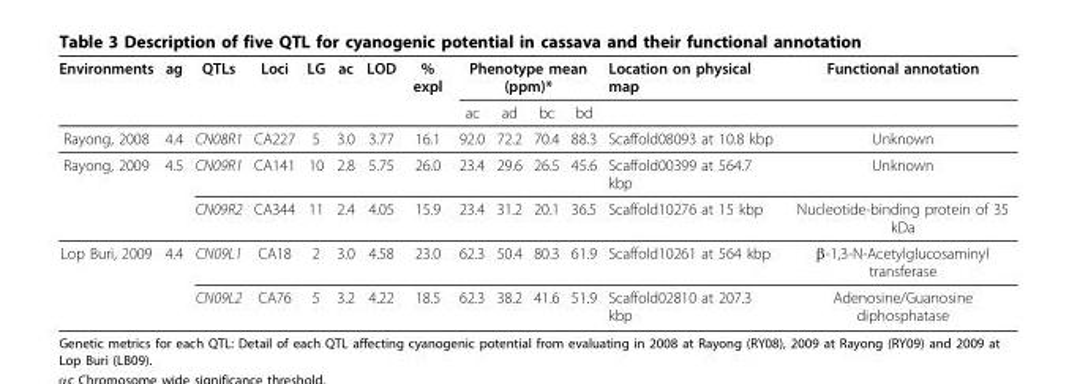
<table><thead><tr><td rowspan="2">Environments</td><td rowspan="2">ag</td><td rowspan="2">QTLs</td><td rowspan="2">Loci</td><td rowspan="2">LG</td><td rowspan="2">ac</td><td rowspan="2">LOD</td><td rowspan="2">% expl</td><td colspan="4">Phenotype mean (ppm)*</td><td rowspan="2">Location on physical map</td><td rowspan="2">Functional annotation</td></tr><tr><td>ac</td><td>ad</td><td>bc</td><td>bd</td></tr></thead><tbody><tr><td>Rayong, 2008</td><td>4.4</td><td>CN08R1</td><td>CA227</td><td>5</td><td>3.0</td><td>3.77</td><td>16.1</td><td>92.0</td><td>72.2</td><td>70.4</td><td>88.3</td><td>Scaffold08093 at 10.8 kbp</td><td>Unknown</td></tr><tr><td rowspan="2">Rayong, 2009</td><td>4.5</td><td>CN09R1</td><td>CA141</td><td>10</td><td>2.8</td><td>5.75</td><td>26.0</td><td>23.4</td><td>29.6</td><td>26.5</td><td>45.6</td><td>Scaffold00399 at 564.7 kbp</td><td>Unknown</td></tr><tr><td></td><td>CN09R2</td><td>CA344</td><td>11</td><td>2.4</td><td>4.05</td><td>15.9</td><td>23.4</td><td>31.2</td><td>20.1</td><td>36.5</td><td>Scaffold10276 at 15 kbp</td><td>Nucleotide-binding protein of 35 kDa</td></tr><tr><td rowspan="2">Lop Buri, 2009</td><td>4.4</td><td>CN09L1</td><td>CA18</td><td>2</td><td>3.0</td><td>4.58</td><td>23.0</td><td>62.3</td><td>50.4</td><td>80.3</td><td>61.9</td><td>Scaffold10261 at 564 kbp</td><td>β-1,3-N-Acetylglucosaminyl transferase</td></tr><tr><td></td><td>CN09L2</td><td>CA76</td><td>5</td><td>3.2</td><td>4.22</td><td>18.5</td><td>62.3</td><td>38.2</td><td>41.6</td><td>51.9</td><td>Scaffold02810 at 207.3 kbp</td><td>Adenosine/Guanosine diphosphatase</td></tr></tbody></table>